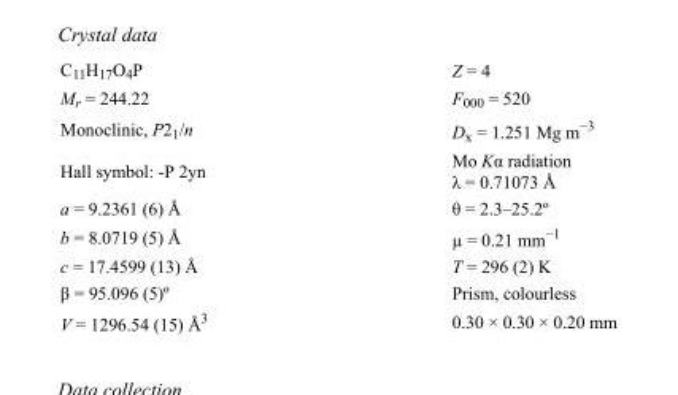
<table><tbody><tr><td>C<sub>11</sub>H<sub>17</sub>O<sub>4</sub>P</td><td>Z = 4</td></tr><tr><td>M<sub>r</sub> = 244.22</td><td>F<sub>000</sub> = 520</td></tr><tr><td>Monoclinic, P2<sub>1</sub>/n</td><td>D<sub>x</sub> = 1.251 Mg m<sup>−3</sup></td></tr><tr><td>Hall symbol: -P 2yn</td><td>Mo Kα radiation λ = 0.71073 Å</td></tr><tr><td>a = 9.2361 (6) Å</td><td>θ = 2.3–25.2º</td></tr><tr><td>b = 8.0719 (5) Å</td><td>µ = 0.21 mm<sup>−1</sup></td></tr><tr><td>c = 17.4599 (13) Å</td><td>T = 296 (2) K</td></tr><tr><td>β = 95.096 (5)º</td><td>Prism, colourless</td></tr><tr><td>V = 1296.54 (15) Å<sup>3</sup></td><td>0.30 × 0.30 × 0.20 mm</td></tr></tbody></table>